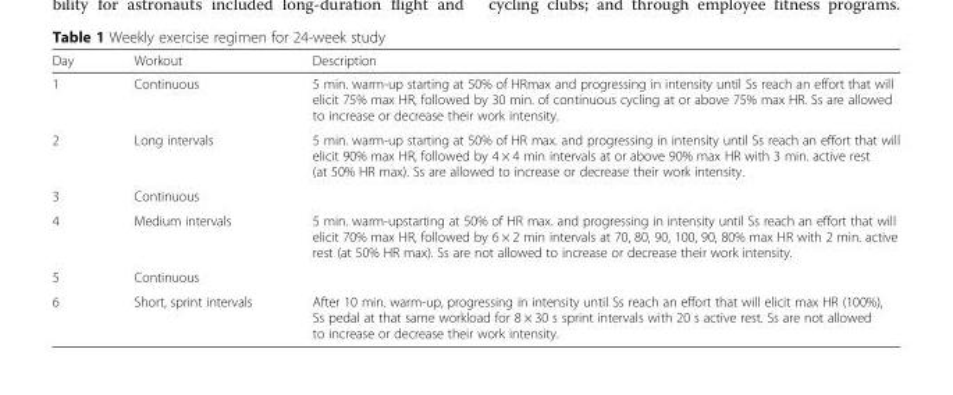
<table><thead><tr><td>Day</td><td>Workout</td><td>Description</td></tr></thead><tbody><tr><td>1</td><td>Continuous</td><td>5 min. warm-up starting at 50% of HRmax and progressing in intensity until Ss reach an effort that will elicit 75% max HR, followed by 30 min. of continuous cycling at or above 75% max HR. Ss are allowed to increase or decrease their work intensity.</td></tr><tr><td>2</td><td>Long intervals</td><td>5 min. warm-up starting at 50% of HR max. and progressing in intensity until Ss reach an effort that will elicit 90% max HR, followed by 4 × 4 min intervals at or above 90% max HR with 3 min. active rest (at 50% HR max). Ss are allowed to increase or decrease their work intensity.</td></tr><tr><td>3</td><td>Continuous</td><td></td></tr><tr><td>4</td><td>Medium intervals</td><td>5 min. warm-upstarting at 50% of HR max. and progressing in intensity until Ss reach an effort that will elicit 70% max HR, followed by 6 × 2 min intervals at 70, 80, 90, 100, 90, 80% max HR with 2 min. active rest (at 50% HR max). Ss are not allowed to increase or decrease their work intensity.</td></tr><tr><td>5</td><td>Continuous</td><td></td></tr><tr><td>6</td><td>Short, sprint intervals</td><td>After 10 min. warm-up, progressing in intensity until Ss reach an effort that will elicit max HR (100%), Ss pedal at that same workload for 8 × 30 s sprint intervals with 20 s active rest. Ss are not allowed to increase or decrease their work intensity.</td></tr></tbody></table>